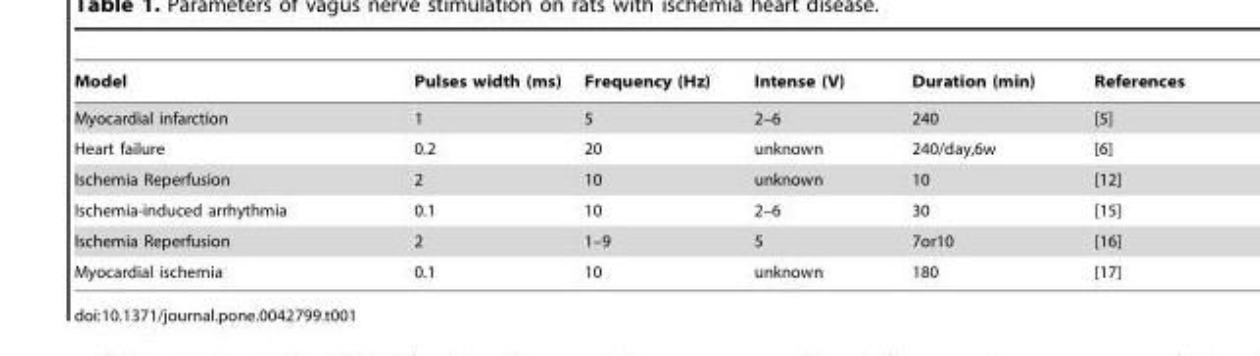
<table><thead><tr><td>Model</td><td>Pulses width (ms)</td><td>Frequency (Hz)</td><td>Intense (V)</td><td>Duration (min)</td><td>References</td></tr></thead><tbody><tr><td>Myocardial infarction</td><td>1</td><td>5</td><td>2–6</td><td>240</td><td>[5]</td></tr><tr><td>Heart failure</td><td>0.2</td><td>20</td><td>unknown</td><td>240/day,6w</td><td>[6]</td></tr><tr><td>Ischemia Reperfusion</td><td>2</td><td>10</td><td>unknown</td><td>10</td><td>[12]</td></tr><tr><td>Ischemia-induced arrhythmia</td><td>0.1</td><td>10</td><td>2–6</td><td>30</td><td>[15]</td></tr><tr><td>Ischemia Reperfusion</td><td>2</td><td>1–9</td><td>5</td><td>7or10</td><td>[16]</td></tr><tr><td>Myocardial ischemia</td><td>0.1</td><td>10</td><td>unknown</td><td>180</td><td>[17]</td></tr></tbody></table>